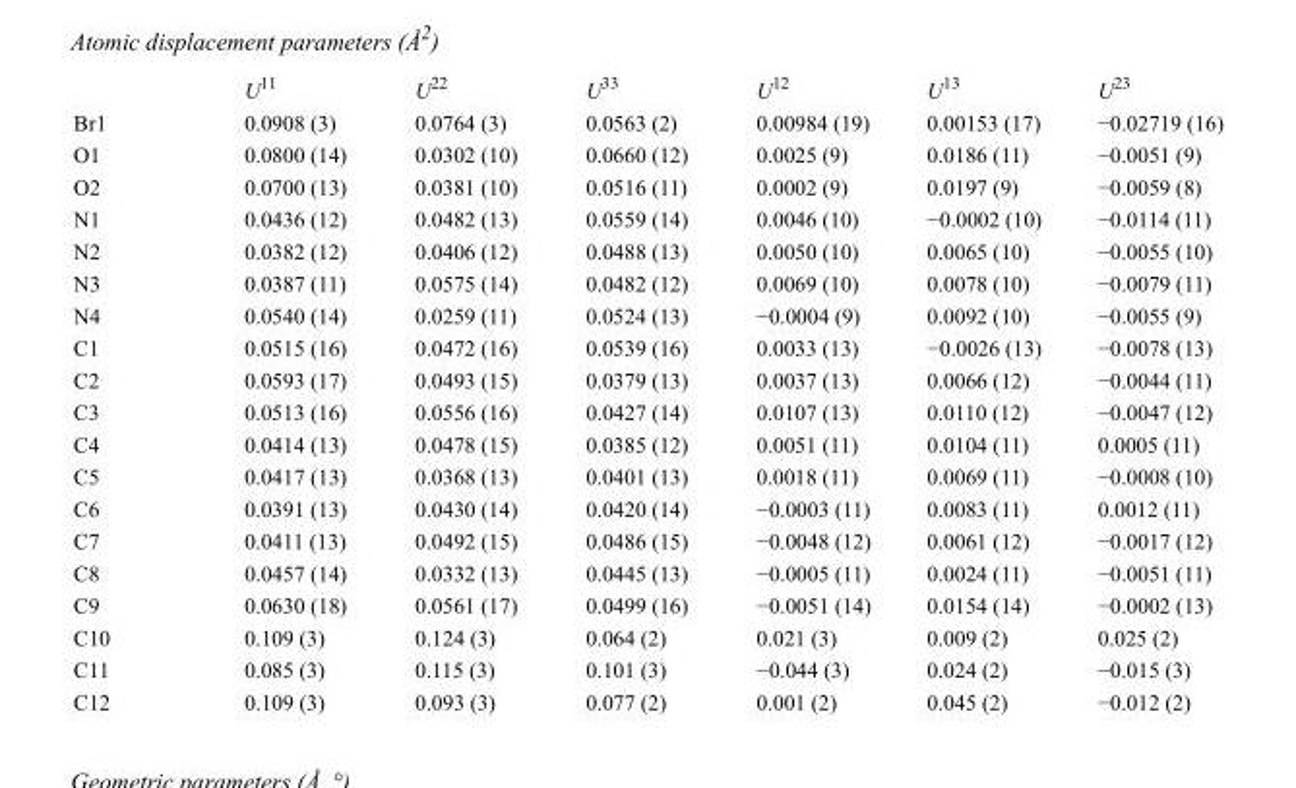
<table><thead><tr><td></td><td>U<sup>11</sup></td><td>U<sup>22</sup></td><td>U<sup>33</sup></td><td>U<sup>12</sup></td><td>U<sup>13</sup></td><td>U<sup>23</sup></td></tr></thead><tbody><tr><td>Br1</td><td>0.0908 (3)</td><td>0.0764 (3)</td><td>0.0563 (2)</td><td>0.00984 (19)</td><td>0.00153 (17)</td><td>−0.02719 (16)</td></tr><tr><td>O1</td><td>0.0800 (14)</td><td>0.0302 (10)</td><td>0.0660 (12)</td><td>0.0025 (9)</td><td>0.0186 (11)</td><td>−0.0051 (9)</td></tr><tr><td>O2</td><td>0.0700 (13)</td><td>0.0381 (10)</td><td>0.0516 (11)</td><td>0.0002 (9)</td><td>0.0197 (9)</td><td>−0.0059 (8)</td></tr><tr><td>N1</td><td>0.0436 (12)</td><td>0.0482 (13)</td><td>0.0559 (14)</td><td>0.0046 (10)</td><td>−0.0002 (10)</td><td>−0.0114 (11)</td></tr><tr><td>N2</td><td>0.0382 (12)</td><td>0.0406 (12)</td><td>0.0488 (13)</td><td>0.0050 (10)</td><td>0.0065 (10)</td><td>−0.0055 (10)</td></tr><tr><td>N3</td><td>0.0387 (11)</td><td>0.0575 (14)</td><td>0.0482 (12)</td><td>0.0069 (10)</td><td>0.0078 (10)</td><td>−0.0079 (11)</td></tr><tr><td>N4</td><td>0.0540 (14)</td><td>0.0259 (11)</td><td>0.0524 (13)</td><td>−0.0004 (9)</td><td>0.0092 (10)</td><td>−0.0055 (9)</td></tr><tr><td>C1</td><td>0.0515 (16)</td><td>0.0472 (16)</td><td>0.0539 (16)</td><td>0.0033 (13)</td><td>−0.0026 (13)</td><td>−0.0078 (13)</td></tr><tr><td>C2</td><td>0.0593 (17)</td><td>0.0493 (15)</td><td>0.0379 (13)</td><td>0.0037 (13)</td><td>0.0066 (12)</td><td>−0.0044 (11)</td></tr><tr><td>C3</td><td>0.0513 (16)</td><td>0.0556 (16)</td><td>0.0427 (14)</td><td>0.0107 (13)</td><td>0.0110 (12)</td><td>−0.0047 (12)</td></tr><tr><td>C4</td><td>0.0414 (13)</td><td>0.0478 (15)</td><td>0.0385 (12)</td><td>0.0051 (11)</td><td>0.0104 (11)</td><td>0.0005 (11)</td></tr><tr><td>C5</td><td>0.0417 (13)</td><td>0.0368 (13)</td><td>0.0401 (13)</td><td>0.0018 (11)</td><td>0.0069 (11)</td><td>−0.0008 (10)</td></tr><tr><td>C6</td><td>0.0391 (13)</td><td>0.0430 (14)</td><td>0.0420 (14)</td><td>−0.0003 (11)</td><td>0.0083 (11)</td><td>0.0012 (11)</td></tr><tr><td>C7</td><td>0.0411 (13)</td><td>0.0492 (15)</td><td>0.0486 (15)</td><td>−0.0048 (12)</td><td>0.0061 (12)</td><td>−0.0017 (12)</td></tr><tr><td>C8</td><td>0.0457 (14)</td><td>0.0332 (13)</td><td>0.0445 (13)</td><td>−0.0005 (11)</td><td>0.0024 (11)</td><td>−0.0051 (11)</td></tr><tr><td>C9</td><td>0.0630 (18)</td><td>0.0561 (17)</td><td>0.0499 (16)</td><td>−0.0051 (14)</td><td>0.0154 (14)</td><td>−0.0002 (13)</td></tr><tr><td>C10</td><td>0.109 (3)</td><td>0.124 (3)</td><td>0.064 (2)</td><td>0.021 (3)</td><td>0.009 (2)</td><td>0.025 (2)</td></tr><tr><td>C11</td><td>0.085 (3)</td><td>0.115 (3)</td><td>0.101 (3)</td><td>−0.044 (3)</td><td>0.024 (2)</td><td>−0.015 (3)</td></tr><tr><td>C12</td><td>0.109 (3)</td><td>0.093 (3)</td><td>0.077 (2)</td><td>0.001 (2)</td><td>0.045 (2)</td><td>−0.012 (2)</td></tr></tbody></table>